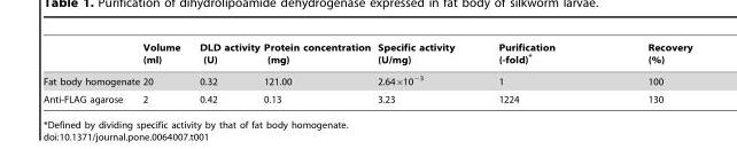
<table><thead><tr><td></td><td>Volume (ml)</td><td>DLD activity (U)</td><td>Protein concentration (mg)</td><td>Specific activity (U/mg)</td><td>Purification (-fold)*</td><td>Recovery (%)</td></tr></thead><tbody><tr><td>Fat body homogenate</td><td>20</td><td>0.32</td><td>121.00</td><td>2.64×10<sup>−3</sup></td><td>1</td><td>100</td></tr><tr><td>Anti-FLAG agarose</td><td>2</td><td>0.42</td><td>0.13</td><td>3.23</td><td>1224</td><td>130</td></tr></tbody></table>